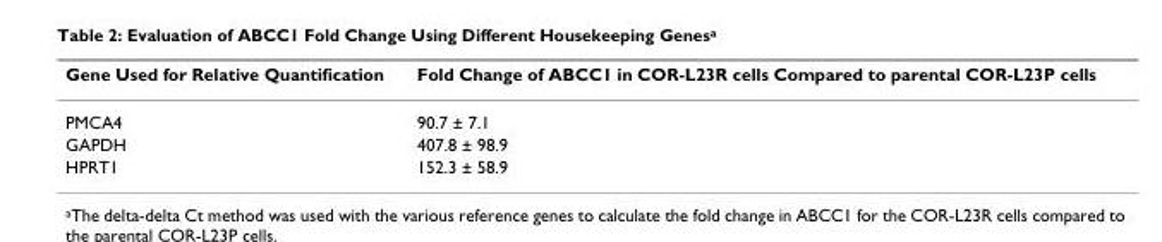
<table><thead><tr><td>Gene Used for Relative Quantification</td><td>Fold Change of ABCC1 in COR-L23R cells Compared to parental COR-L23P cells</td></tr></thead><tbody><tr><td>PMCA4</td><td>90.7 ± 7.1</td></tr><tr><td>GAPDH</td><td>407.8 ± 98.9</td></tr><tr><td>HPRT1</td><td>152.3 ± 58.9</td></tr></tbody></table>